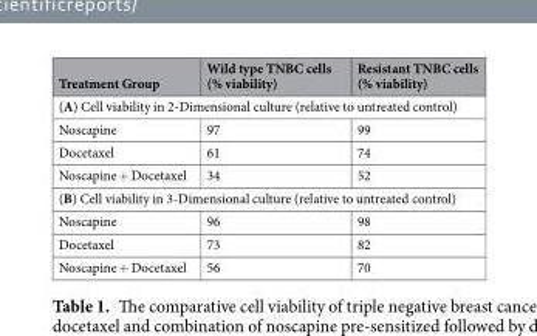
<table><thead><tr><td>Treatment Group</td><td>Wild type TNBC cells (% viability)</td><td>Resistant TNBC cells (% viability)</td></tr></thead><tbody><tr><td colspan="3">(A) Cell viability in 2-Dimensional culture (relative to untreated control)</td></tr><tr><td>Noscapine</td><td>97</td><td>99</td></tr><tr><td>Docetaxel</td><td>61</td><td>74</td></tr><tr><td>Noscapine + Docetaxel</td><td>34</td><td>52</td></tr><tr><td colspan="3">(B) Cell viability in 3-Dimensional culture (relative to untreated control)</td></tr><tr><td>Noscapine</td><td>96</td><td>98</td></tr><tr><td>Docetaxel</td><td>73</td><td>82</td></tr><tr><td>Noscapine + Docetaxel</td><td>56</td><td>70</td></tr></tbody></table>